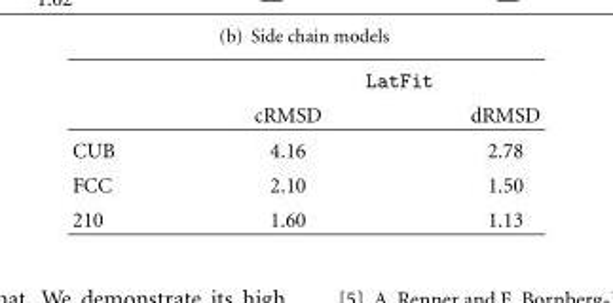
<table><thead><tr><td rowspan="2"></td><td colspan="2">LatFit</td></tr><tr><td>cRMSD</td><td>dRMSD</td></tr></thead><tbody><tr><td>CUB</td><td>4.16</td><td>2.78</td></tr><tr><td>FCC</td><td>2.10</td><td>1.50</td></tr><tr><td>210</td><td>1.60</td><td>1.13</td></tr></tbody></table>